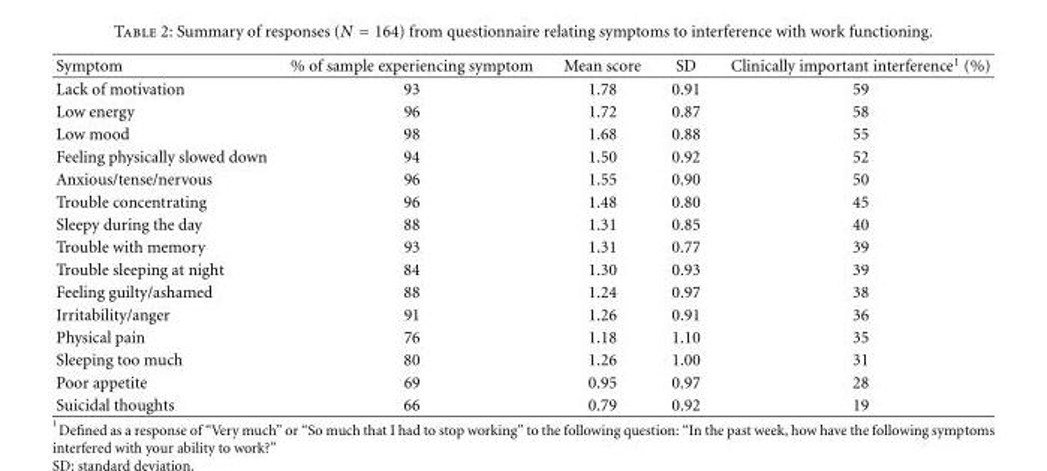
<table><thead><tr><td>Symptom</td><td>% of sample experiencing symptom</td><td>Mean score</td><td>SD</td><td>Clinically important interference<sup>1</sup> (%)</td></tr></thead><tbody><tr><td>Lack of motivation</td><td>93</td><td>1.78</td><td>0.91</td><td>59</td></tr><tr><td>Low energy</td><td>96</td><td>1.72</td><td>0.87</td><td>58</td></tr><tr><td>Low mood</td><td>98</td><td>1.68</td><td>0.88</td><td>55</td></tr><tr><td>Feeling physically slowed down</td><td>94</td><td>1.50</td><td>0.92</td><td>52</td></tr><tr><td>Anxious/tense/nervous</td><td>96</td><td>1.55</td><td>0.90</td><td>50</td></tr><tr><td>Trouble concentrating</td><td>96</td><td>1.48</td><td>0.80</td><td>45</td></tr><tr><td>Sleepy during the day</td><td>88</td><td>1.31</td><td>0.85</td><td>40</td></tr><tr><td>Trouble with memory</td><td>93</td><td>1.31</td><td>0.77</td><td>39</td></tr><tr><td>Trouble sleeping at night</td><td>84</td><td>1.30</td><td>0.93</td><td>39</td></tr><tr><td>Feeling guilty/ashamed</td><td>88</td><td>1.24</td><td>0.97</td><td>38</td></tr><tr><td>Irritability/anger</td><td>91</td><td>1.26</td><td>0.91</td><td>36</td></tr><tr><td>Physical pain</td><td>76</td><td>1.18</td><td>1.10</td><td>35</td></tr><tr><td>Sleeping too much</td><td>80</td><td>1.26</td><td>1.00</td><td>31</td></tr><tr><td>Poor appetite</td><td>69</td><td>0.95</td><td>0.97</td><td>28</td></tr><tr><td>Suicidal thoughts</td><td>66</td><td>0.79</td><td>0.92</td><td>19</td></tr></tbody></table>